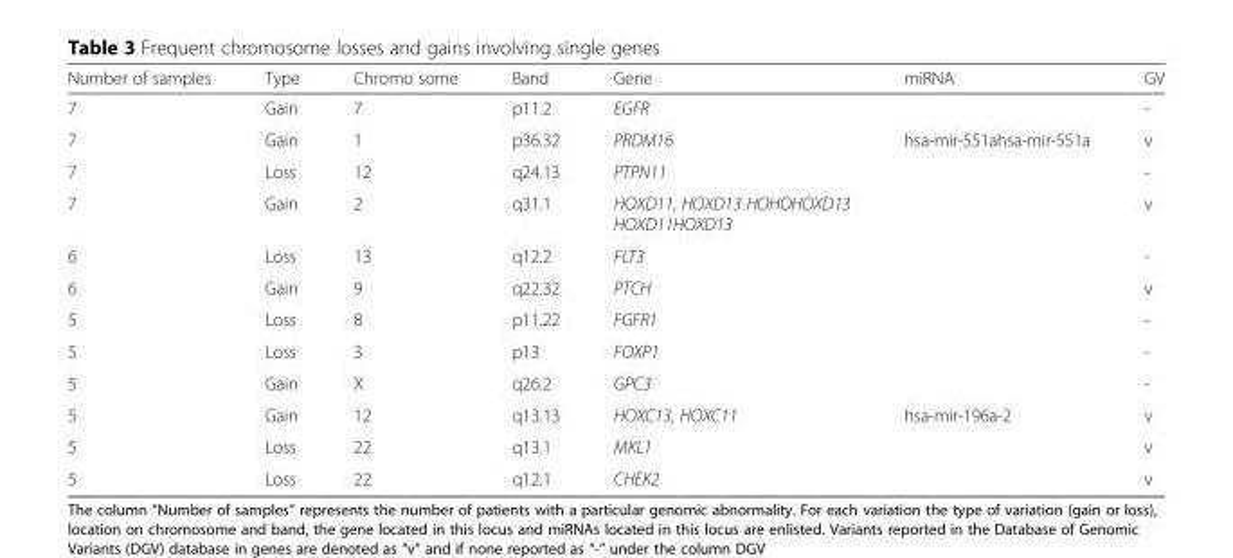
<table><thead><tr><td>Number of samples</td><td>Type</td><td>Chromo some</td><td>Band</td><td>Gene</td><td>miRNA</td><td>GV</td></tr></thead><tbody><tr><td>7</td><td>Gain</td><td>7</td><td>p11.2</td><td>EGFR</td><td></td><td>-</td></tr><tr><td>7</td><td>Gain</td><td>1</td><td>p36.32</td><td>PRDM16</td><td>hsa-mir-551ahsa-mir-551a</td><td>v</td></tr><tr><td>7</td><td>Loss</td><td>12</td><td>q24.13</td><td>PTPN11</td><td></td><td>-</td></tr><tr><td>7</td><td>Gain</td><td>2</td><td>q31.1</td><td>HOXD11, HOXD13 HOHOHOXD13 HOXD11HOXD13</td><td></td><td>v</td></tr><tr><td>6</td><td>Loss</td><td>13</td><td>q12.2</td><td>FLT3</td><td></td><td>-</td></tr><tr><td>6</td><td>Gain</td><td>9</td><td>q22.32</td><td>PTCH</td><td></td><td>v</td></tr><tr><td>5</td><td>Loss</td><td>8</td><td>p11.22</td><td>FGFR1</td><td></td><td>-</td></tr><tr><td>5</td><td>Loss</td><td>3</td><td>p13</td><td>FOXP1</td><td></td><td>-</td></tr><tr><td>5</td><td>Gain</td><td>X</td><td>q26.2</td><td>GPC3</td><td></td><td>-</td></tr><tr><td>5</td><td>Gain</td><td>12</td><td>q13.13</td><td>HOXC13, HOXC11</td><td>hsa-mir-196a-2</td><td>v</td></tr><tr><td>5</td><td>Loss</td><td>22</td><td>q13.1</td><td>MKL1</td><td></td><td>v</td></tr><tr><td>5</td><td>Loss</td><td>22</td><td>q12.1</td><td>CHEK2</td><td></td><td>v</td></tr></tbody></table>